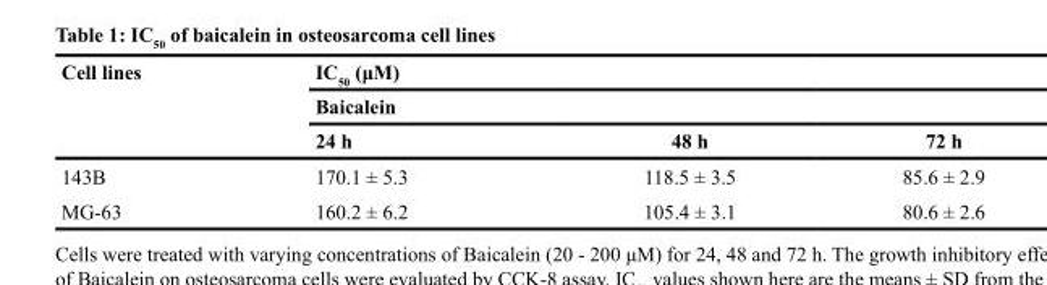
<table><thead><tr><td rowspan="3">Cell lines</td><td rowspan="2" colspan="3">IC<sub>50</sub> (μM) Baicalein</td></tr><tr></tr><tr><td>24 h</td><td>48 h</td><td>72 h</td></tr></thead><tbody><tr><td>143B</td><td>170.1 ± 5.3</td><td>118.5 ± 3.5</td><td>85.6 ± 2.9</td></tr><tr><td>MG-63</td><td>160.2 ± 6.2</td><td>105.4 ± 3.1</td><td>80.6 ± 2.6</td></tr></tbody></table>